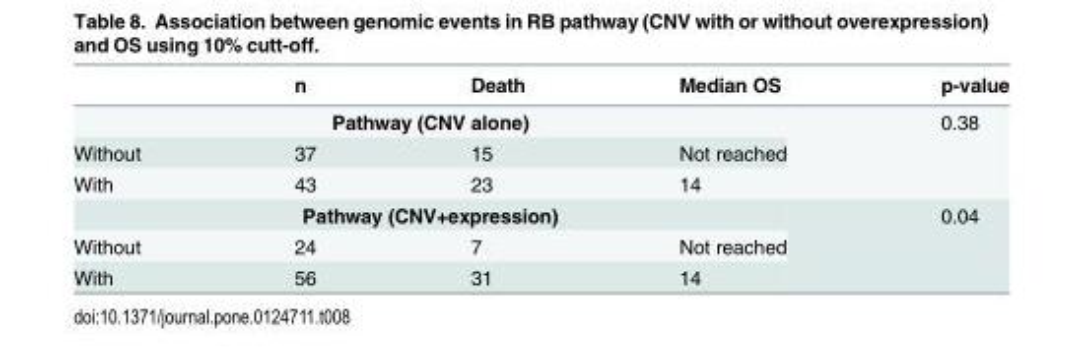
<table><thead><tr><td></td><td>n</td><td>Death</td><td>Median OS</td><td>p-value</td></tr></thead><tbody><tr><td colspan="4">Pathway (CNV alone)</td><td rowspan="3">0.38</td></tr><tr><td>Without</td><td>37</td><td>15</td><td>Not reached</td></tr><tr><td>With</td><td>43</td><td>23</td><td>14</td></tr><tr><td colspan="4">Pathway (CNV+expression)</td><td rowspan="3">0.04</td></tr><tr><td>Without</td><td>24</td><td>7</td><td>Not reached</td></tr><tr><td>With</td><td>56</td><td>31</td><td>14</td></tr></tbody></table>